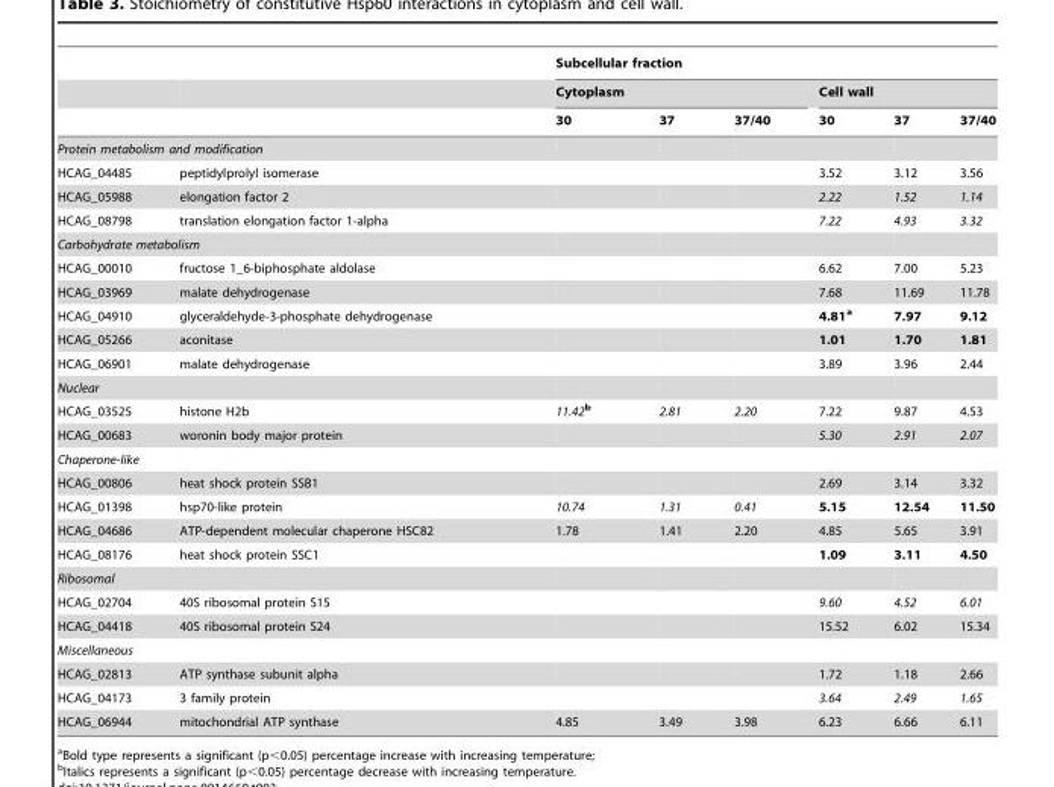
<table><thead><tr><td rowspan="3"></td><td rowspan="3"></td><td colspan="6">Subcellular fraction</td></tr><tr><td colspan="3">Cytoplasm</td><td colspan="3">Cell wall</td></tr><tr><td>30</td><td>37</td><td>37/40</td><td>30</td><td>37</td><td>37/40</td></tr></thead><tbody><tr><td colspan="8">Protein metabolism and modification</td></tr><tr><td>HCAG_04485</td><td>peptidylprolyl isomerase</td><td></td><td></td><td></td><td>3.52</td><td>3.12</td><td>3.56</td></tr><tr><td>HCAG_05988</td><td>elongation factor 2</td><td></td><td></td><td></td><td>2.22</td><td>1.52</td><td>1.14</td></tr><tr><td>HCAG_08798</td><td>translation elongation factor 1-alpha</td><td></td><td></td><td></td><td>7.22</td><td>4.93</td><td>3.32</td></tr><tr><td colspan="8">Carbohydrate metabolism</td></tr><tr><td>HCAG_00010</td><td>fructose 1_6-biphosphate aldolase</td><td></td><td></td><td></td><td>6.62</td><td>7.00</td><td>5.23</td></tr><tr><td>HCAG_03969</td><td>malate dehydrogenase</td><td></td><td></td><td></td><td>7.68</td><td>11.69</td><td>11.78</td></tr><tr><td>HCAG_04910</td><td>glyceraldehyde-3-phosphate dehydrogenase</td><td></td><td></td><td></td><td>4.81a</td><td>7.97</td><td>9.12</td></tr><tr><td>HCAG_05266</td><td>aconitase</td><td></td><td></td><td></td><td>1.01</td><td>1.70</td><td>1.81</td></tr><tr><td>HCAG_06901</td><td>malate dehydrogenase</td><td></td><td></td><td></td><td>3.89</td><td>3.96</td><td>2.44</td></tr><tr><td colspan="8">Nuclear</td></tr><tr><td>HCAG_03525</td><td>histone H2b</td><td>11.42b</td><td>2.81</td><td>2.20</td><td>7.22</td><td>9.87</td><td>4.53</td></tr><tr><td>HCAG_00683</td><td>woronin body major protein</td><td></td><td></td><td></td><td>5.30</td><td>2.91</td><td>2.07</td></tr><tr><td colspan="8">Chaperone-like</td></tr><tr><td>HCAG_00806</td><td>heat shock protein SSB1</td><td></td><td></td><td></td><td>2.69</td><td>3.14</td><td>3.32</td></tr><tr><td>HCAG_01398</td><td>hsp70-like protein</td><td>10.74</td><td>1.31</td><td>0.41</td><td>5.15</td><td>12.54</td><td>11.50</td></tr><tr><td>HCAG_04686</td><td>ATP-dependent molecular chaperone HSC82</td><td>1.78</td><td>1.41</td><td>2.20</td><td>4.85</td><td>5.65</td><td>3.91</td></tr><tr><td>HCAG_08176</td><td>heat shock protein SSC1</td><td></td><td></td><td></td><td>1.09</td><td>3.11</td><td>4.50</td></tr><tr><td colspan="8">Ribosomal</td></tr><tr><td>HCAG_02704</td><td>40S ribosomal protein S15</td><td></td><td></td><td></td><td>9.60</td><td>4.52</td><td>6.01</td></tr><tr><td>HCAG_04418</td><td>40S ribosomal protein S24</td><td></td><td></td><td></td><td>15.52</td><td>6.02</td><td>15.34</td></tr><tr><td colspan="8">Miscellaneous</td></tr><tr><td>HCAG_02813</td><td>ATP synthase subunit alpha</td><td></td><td></td><td></td><td>1.72</td><td>1.18</td><td>2.66</td></tr><tr><td>HCAG_04173</td><td>3 family protein</td><td></td><td></td><td></td><td>3.64</td><td>2.49</td><td>1.65</td></tr><tr><td>HCAG_06944</td><td>mitochondrial ATP synthase</td><td>4.85</td><td>3.49</td><td>3.98</td><td>6.23</td><td>6.66</td><td>6.11</td></tr></tbody></table>